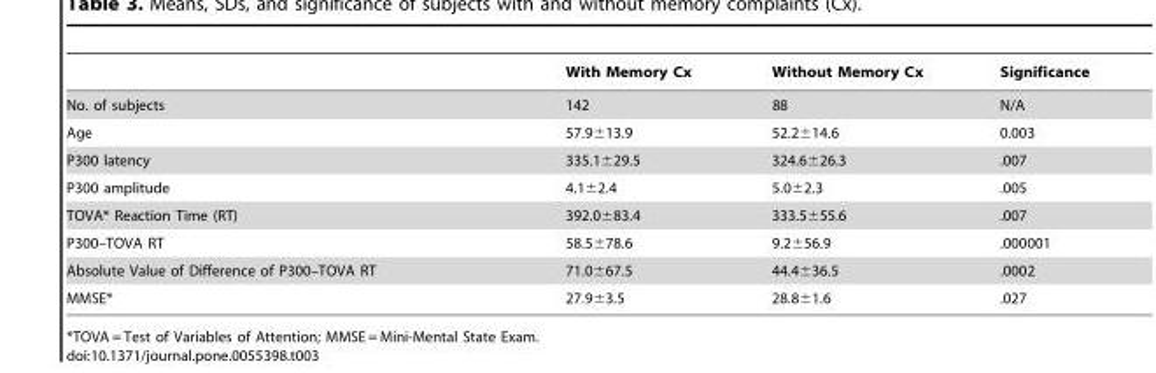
<table><thead><tr><td></td><td>With Memory Cx</td><td>Without Memory Cx</td><td>Significance</td></tr></thead><tbody><tr><td>No. of subjects</td><td>142</td><td>88</td><td>N/A</td></tr><tr><td>Age</td><td>57.9±13.9</td><td>52.2±14.6</td><td>0.003</td></tr><tr><td>P300 latency</td><td>335.1±29.5</td><td>324.6±26.3</td><td>.007</td></tr><tr><td>P300 amplitude</td><td>4.1±2.4</td><td>5.0±2.3</td><td>.005</td></tr><tr><td>TOVA* Reaction Time (RT)</td><td>392.0±83.4</td><td>333.5±55.6</td><td>.007</td></tr><tr><td>P300–TOVA RT</td><td>58.5±78.6</td><td>9.2±56.9</td><td>.000001</td></tr><tr><td>Absolute Value of Difference of P300–TOVA RT</td><td>71.0±67.5</td><td>44.4±36.5</td><td>.0002</td></tr><tr><td>MMSE*</td><td>27.9±3.5</td><td>28.8±1.6</td><td>.027</td></tr></tbody></table>